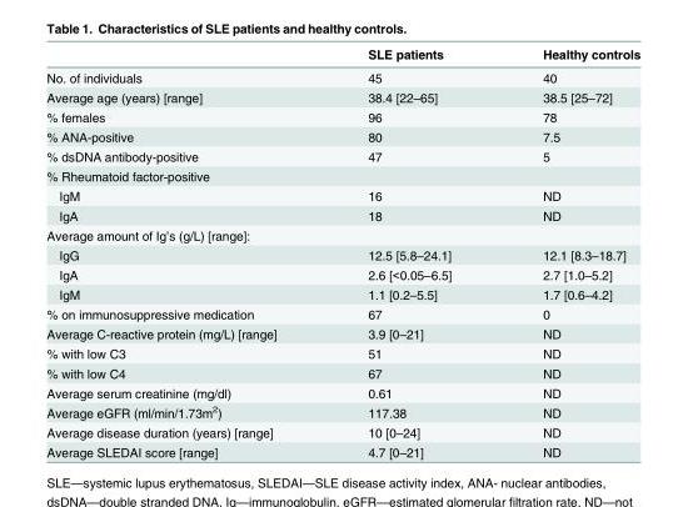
<table><thead><tr><td></td><td>SLE patients</td><td>Healthy controls</td></tr></thead><tbody><tr><td>No. of individuals</td><td>45</td><td>40</td></tr><tr><td>Average age (years) [range]</td><td>38.4 [22–65]</td><td>38.5 [25–72]</td></tr><tr><td>% females</td><td>96</td><td>78</td></tr><tr><td>% ANA-positive</td><td>80</td><td>7.5</td></tr><tr><td>% dsDNA antibody-positive</td><td>47</td><td>5</td></tr><tr><td colspan="3">% Rheumatoid factor-positive</td></tr><tr><td>IgM</td><td>16</td><td>ND</td></tr><tr><td>IgA</td><td>18</td><td>ND</td></tr><tr><td colspan="3">Average amount of Ig’s (g/L) [range]:</td></tr><tr><td>IgG</td><td>12.5 [5.8–24.1]</td><td>12.1 [8.3–18.7]</td></tr><tr><td>IgA</td><td>2.6 [&lt;0.05–6.5]</td><td>2.7 [1.0–5.2]</td></tr><tr><td>IgM</td><td>1.1 [0.2–5.5]</td><td>1.7 [0.6–4.2]</td></tr><tr><td>% on immunosuppressive medication</td><td>67</td><td>0</td></tr><tr><td>Average C-reactive protein (mg/L) [range]</td><td>3.9 [0–21]</td><td>ND</td></tr><tr><td>% with low C3</td><td>51</td><td>ND</td></tr><tr><td>% with low C4</td><td>67</td><td>ND</td></tr><tr><td>Average serum creatinine (mg/dl)</td><td>0.61</td><td>ND</td></tr><tr><td>Average eGFR (ml/min/1.73m<sup>2</sup>)</td><td>117.38</td><td>ND</td></tr><tr><td>Average disease duration (years) [range]</td><td>10 [0–24]</td><td>ND</td></tr><tr><td>Average SLEDAI score [range]</td><td>4.7 [0–21]</td><td>ND</td></tr></tbody></table>